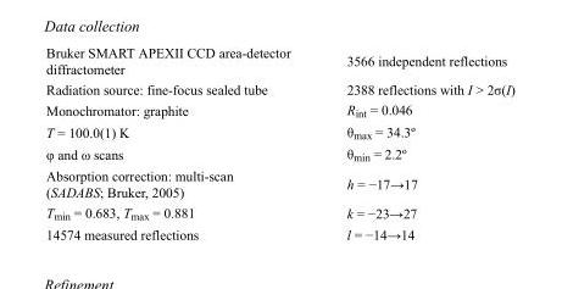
<table><tbody><tr><td>Bruker SMART APEXII CCD area-detector diffractometer</td><td>3566 independent reflections</td></tr><tr><td>Radiation source: fine-focus sealed tube</td><td>2388 reflections with I &gt; 2σ(I)</td></tr><tr><td>Monochromator: graphite</td><td>R<sub>int</sub> = 0.046</td></tr><tr><td>T = 100.0(1) K</td><td>θ<sub>max</sub> = 34.3º</td></tr><tr><td>φ and ω scans</td><td>θ<sub>min</sub> = 2.2º</td></tr><tr><td>Absorption correction: multi-scan (SADABS; Bruker, 2005)</td><td>h = −17→17</td></tr><tr><td>T<sub>min</sub> = 0.683, T<sub>max</sub> = 0.881</td><td>k = −23→27</td></tr><tr><td>14574 measured reflections</td><td>l = −14→14</td></tr></tbody></table>